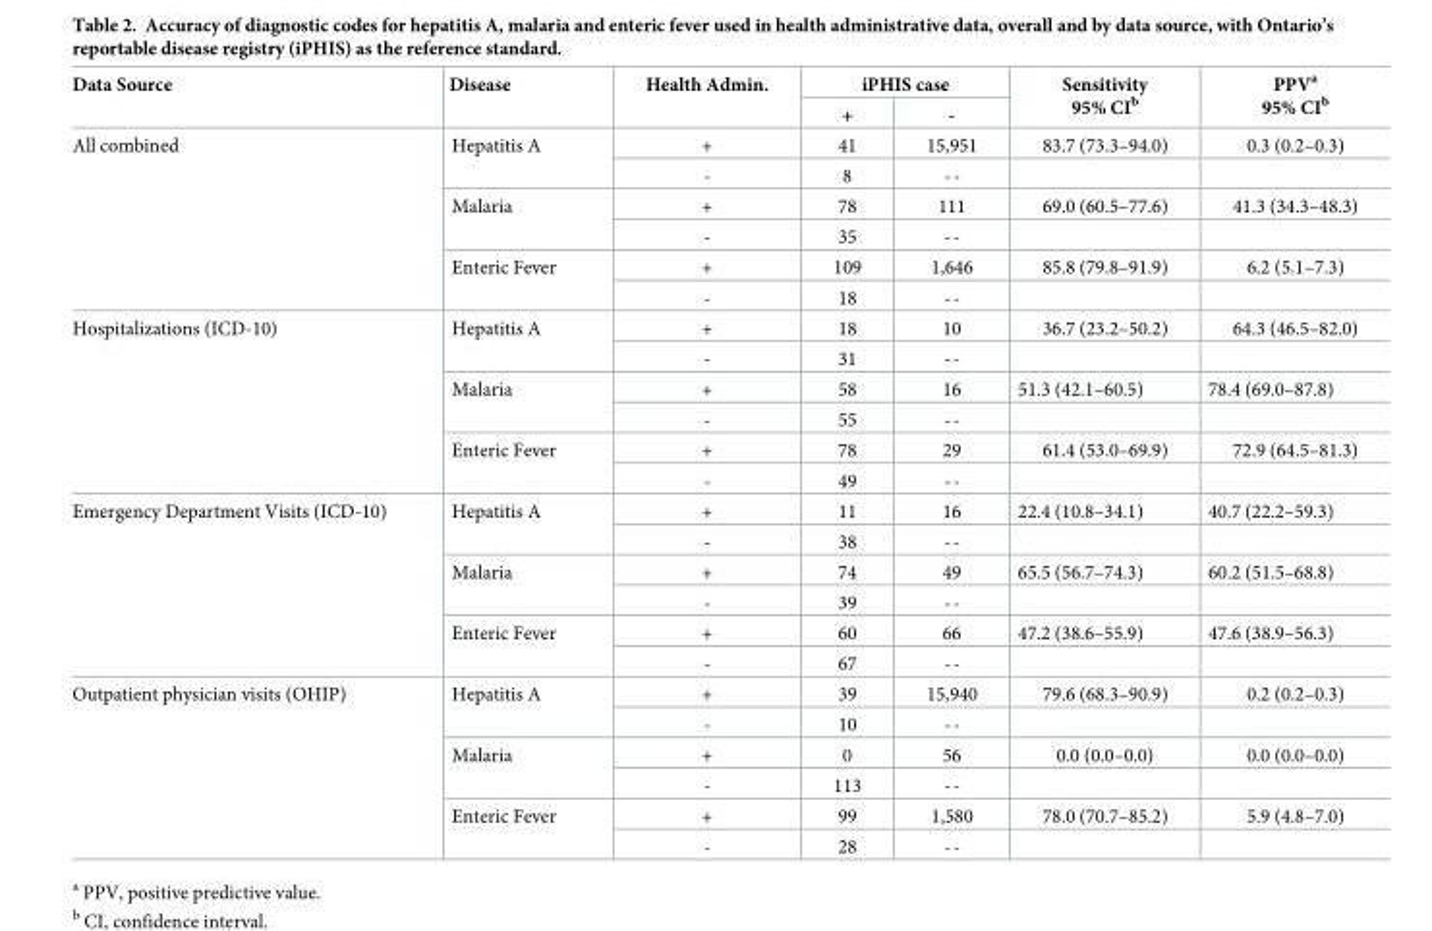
<table><thead><tr><td rowspan="2">Data Source</td><td rowspan="2">Disease</td><td rowspan="2">Health Admin.</td><td colspan="2">iPHIS case</td><td rowspan="2">Sensitivity 95% CI<sup>b</sup></td><td rowspan="2">PPV<sup>a</sup> 95% CI<sup>b</sup></td></tr><tr><td>+</td><td>-</td></tr></thead><tbody><tr><td rowspan="6">All combined</td><td rowspan="2">Hepatitis A</td><td>+</td><td>41</td><td>15,951</td><td>83.7 (73.3–94.0)</td><td>0.3 (0.2–0.3)</td></tr><tr><td>-</td><td>8</td><td>--</td><td></td><td></td></tr><tr><td rowspan="2">Malaria</td><td>+</td><td>78</td><td>111</td><td>69.0 (60.5–77.6)</td><td>41.3 (34.3–48.3)</td></tr><tr><td>-</td><td>35</td><td>--</td><td></td><td></td></tr><tr><td rowspan="2">Enteric Fever</td><td>+</td><td>109</td><td>1,646</td><td>85.8 (79.8–91.9)</td><td>6.2 (5.1–7.3)</td></tr><tr><td>-</td><td>18</td><td>--</td><td></td><td></td></tr><tr><td rowspan="6">Hospitalizations (ICD-10)</td><td rowspan="2">Hepatitis A</td><td>+</td><td>18</td><td>10</td><td>36.7 (23.2–50.2)</td><td>64.3 (46.5–82.0)</td></tr><tr><td>-</td><td>31</td><td>--</td><td></td><td></td></tr><tr><td rowspan="2">Malaria</td><td>+</td><td>58</td><td>16</td><td>51.3 (42.1–60.5)</td><td>78.4 (69.0–87.8)</td></tr><tr><td>-</td><td>55</td><td>--</td><td></td><td></td></tr><tr><td rowspan="2">Enteric Fever</td><td>+</td><td>78</td><td>29</td><td>61.4 (53.0–69.9)</td><td>72.9 (64.5–81.3)</td></tr><tr><td>-</td><td>49</td><td>--</td><td></td><td></td></tr><tr><td rowspan="6">Emergency Department Visits (ICD-10)</td><td rowspan="2">Hepatitis A</td><td>+</td><td>11</td><td>16</td><td>22.4 (10.8–34.1)</td><td>40.7 (22.2–59.3)</td></tr><tr><td>-</td><td>38</td><td>--</td><td></td><td></td></tr><tr><td rowspan="2">Malaria</td><td>+</td><td>74</td><td>49</td><td>65.5 (56.7–74.3)</td><td>60.2 (51.5–68.8)</td></tr><tr><td>-</td><td>39</td><td>--</td><td></td><td></td></tr><tr><td rowspan="2">Enteric Fever</td><td>+</td><td>60</td><td>66</td><td>47.2 (38.6–55.9)</td><td>47.6 (38.9–56.3)</td></tr><tr><td>-</td><td>67</td><td>--</td><td></td><td></td></tr><tr><td rowspan="6">Outpatient physician visits (OHIP)</td><td rowspan="2">Hepatitis A</td><td>+</td><td>39</td><td>15,940</td><td>79.6 (68.3–90.9)</td><td>0.2 (0.2–0.3)</td></tr><tr><td>-</td><td>10</td><td>--</td><td></td><td></td></tr><tr><td rowspan="2">Malaria</td><td>+</td><td>0</td><td>56</td><td>0.0 (0.0–0.0)</td><td>0.0 (0.0–0.0)</td></tr><tr><td>-</td><td>113</td><td>--</td><td></td><td></td></tr><tr><td rowspan="2">Enteric Fever</td><td>+</td><td>99</td><td>1,580</td><td>78.0 (70.7–85.2)</td><td>5.9 (4.8–7.0)</td></tr><tr><td>-</td><td>28</td><td>--</td><td></td><td></td></tr></tbody></table>